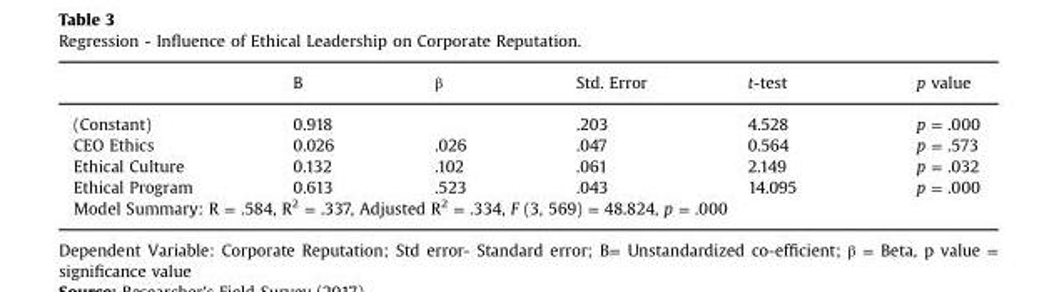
<table><thead><tr><td></td><td>B</td><td>β</td><td>Std. Error</td><td>t-test</td><td>p value</td></tr></thead><tbody><tr><td>(Constant)</td><td>0.918</td><td></td><td>.203</td><td>4.528</td><td>p = .000</td></tr><tr><td>CEO Ethics</td><td>0.026</td><td>.026</td><td>.047</td><td>0.564</td><td>p = .573</td></tr><tr><td>Ethical Culture</td><td>0.132</td><td>.102</td><td>.061</td><td>2.149</td><td>p = .032</td></tr><tr><td>Ethical Program</td><td>0.613</td><td>.523</td><td>.043</td><td>14.095</td><td>p = .000</td></tr><tr><td colspan="6">Model Summary: R = .584, R<sup>2</sup> = .337, Adjusted R<sup>2</sup> = .334, F (3, 569) = 48.824, p = .000</td></tr></tbody></table>